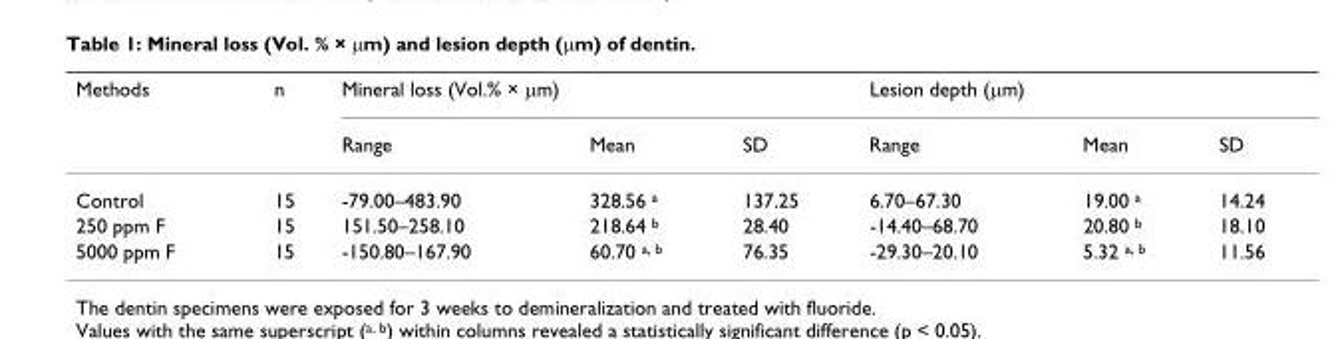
<table><thead><tr><td rowspan="2">Methods</td><td rowspan="2">n</td><td colspan="3">Mineral loss (Vol.% × μm)</td><td colspan="3">Lesion depth (μm)</td></tr><tr><td>Range</td><td>Mean</td><td>SD</td><td>Range</td><td>Mean</td><td>SD</td></tr></thead><tbody><tr><td>Control</td><td>15</td><td>-79.00–483.90</td><td>328.56 <sup>a</sup></td><td>137.25</td><td>6.70–67.30</td><td>19.00 <sup>a</sup></td><td>14.24</td></tr><tr><td>250 ppm F</td><td>15</td><td>151.50–258.10</td><td>218.64 <sup>b</sup></td><td>28.40</td><td>-14.40–68.70</td><td>20.80 <sup>b</sup></td><td>18.10</td></tr><tr><td>5000 ppm F</td><td>15</td><td>-150.80–167.90</td><td>60.70 <sup>a, b</sup></td><td>76.35</td><td>-29.30–20.10</td><td>5.32 <sup>a, b</sup></td><td>11.56</td></tr></tbody></table>